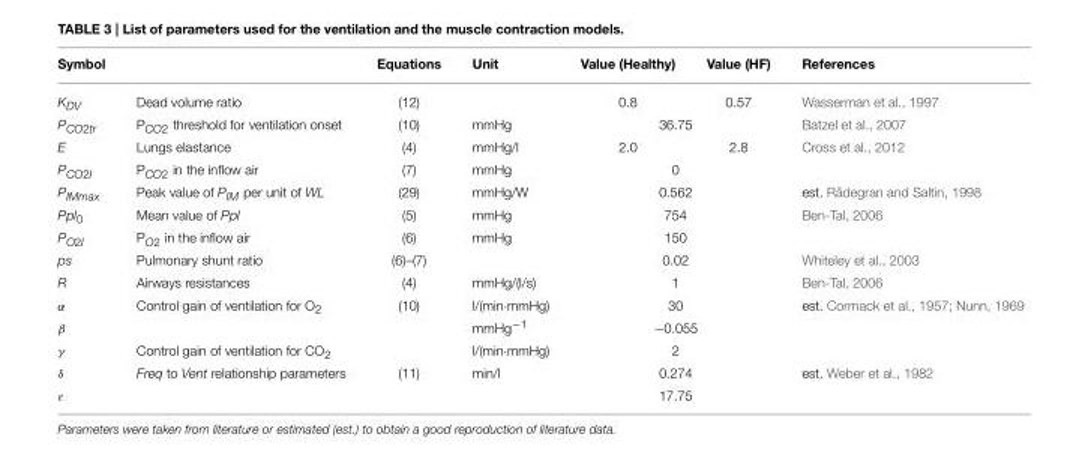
<table><thead><tr><td>Symbol</td><td></td><td>Equations</td><td>Unit</td><td>Value (Healthy)</td><td>Value (HF)</td><td>References</td></tr></thead><tbody><tr><td>KDV</td><td>Dead volume ratio</td><td>(12)</td><td></td><td>0.8</td><td>0.57</td><td>Wasserman et al., 1997</td></tr><tr><td>PCO2tr</td><td>P<sub>CO2</sub> threshold for ventilation onset</td><td>(10)</td><td>mmHg</td><td colspan="2">36.75</td><td>Batzel et al., 2007</td></tr><tr><td>E</td><td>Lungs elastance</td><td>(4)</td><td>mmHg/l</td><td>2.0</td><td>2.8</td><td>Cross et al., 2012</td></tr><tr><td>PCO2I</td><td>P<sub>CO2</sub> in the inflow air</td><td>(7)</td><td>mmHg</td><td colspan="2">0</td><td></td></tr><tr><td>PIMmax</td><td>Peak value of PIM per unit of WL</td><td>(29)</td><td>mmHg/W</td><td colspan="2">0.562</td><td>est. Rådegran and Saltin, 1998</td></tr><tr><td>Ppl<sub>0</sub></td><td>Mean value of Ppl</td><td>(5)</td><td>mmHg</td><td colspan="2">754</td><td>Ben-Tal, 2006</td></tr><tr><td>PO2I</td><td>P<sub>O2</sub> in the inflow air</td><td>(6)</td><td>mmHg</td><td colspan="2">150</td><td></td></tr><tr><td>ps</td><td>Pulmonary shunt ratio</td><td>(6)–(7)</td><td></td><td colspan="2">0.02</td><td>Whiteley et al., 2003</td></tr><tr><td>R</td><td>Airways resistances</td><td>(4)</td><td>mmHg/(l/s)</td><td colspan="2">1</td><td>Ben-Tal, 2006</td></tr><tr><td>α</td><td>Control gain of ventilation for O<sub>2</sub></td><td>(10)</td><td>l/(min·mmHg)</td><td colspan="2">30</td><td>est. Cormack et al., 1957; Nunn, 1969</td></tr><tr><td>β</td><td></td><td></td><td>mmHg<sup>−1</sup></td><td colspan="2">−0.055</td><td></td></tr><tr><td>γ</td><td>Control gain of ventilation for CO<sub>2</sub></td><td></td><td>l/(min·mmHg)</td><td colspan="2">2</td><td></td></tr><tr><td>δ</td><td>Freq to Vent relationship parameters</td><td>(11)</td><td>min/l</td><td colspan="2">0.274</td><td>est. Weber et al., 1982</td></tr><tr><td>ε</td><td></td><td></td><td></td><td colspan="2">17.75</td><td></td></tr></tbody></table>